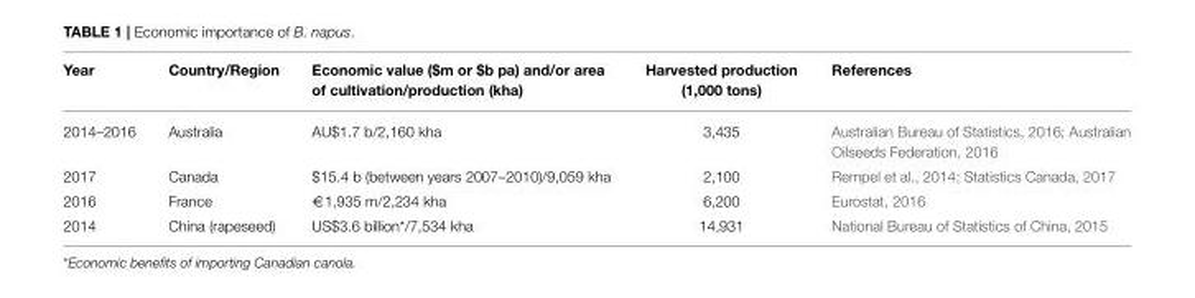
<table><thead><tr><td>Year</td><td>Country/Region</td><td>Economic value ($m or $b pa) and/or area of cultivation/production (kha)</td><td>Harvested production (1,000 tons)</td><td>References</td></tr></thead><tbody><tr><td>2014–2016</td><td>Australia</td><td>AU$1.7 b/2,160 kha</td><td>3,435</td><td>Australian Bureau of Statistics, 2016; Australian Oilseeds Federation, 2016</td></tr><tr><td>2017</td><td>Canada</td><td>$15.4 b (between years 2007–2010)/9,059 kha</td><td>2,100</td><td>Rempel et al., 2014; Statistics Canada, 2017</td></tr><tr><td>2016</td><td>France</td><td>€1,935 m/2,234 kha</td><td>6,200</td><td>Eurostat, 2016</td></tr><tr><td>2014</td><td>China (rapeseed)</td><td>US$3.6 billion*/7,534 kha</td><td>14,931</td><td>National Bureau of Statistics of China, 2015</td></tr></tbody></table>